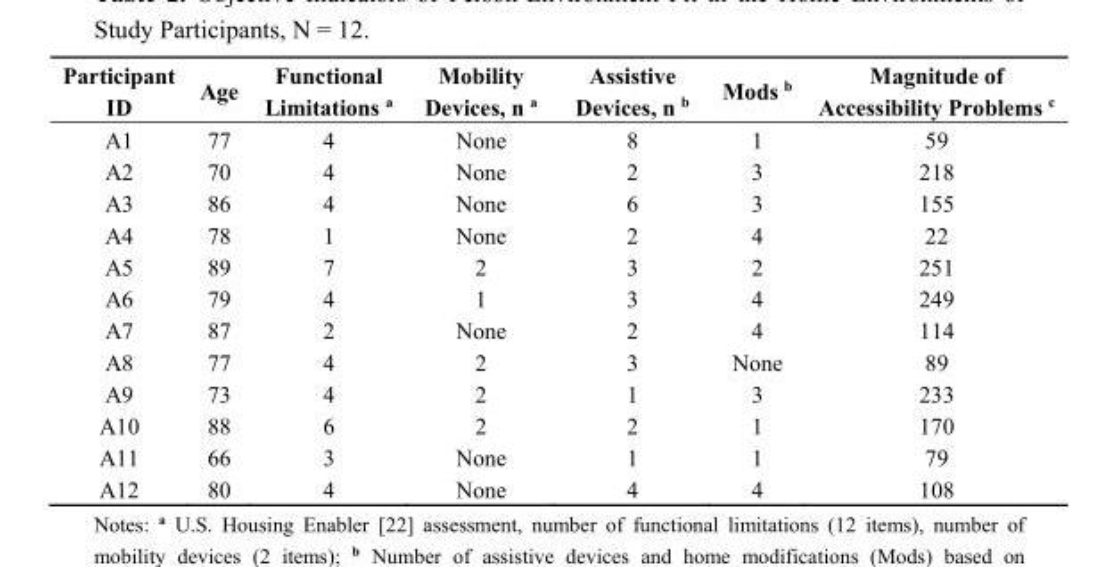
<table><thead><tr><td>Participant ID</td><td>Age</td><td>Functional Limitations <sup>a</sup></td><td>Mobility Devices, n <sup>a</sup></td><td>Assistive Devices, n <sup>b</sup></td><td>Mods <sup>b</sup></td><td>Magnitude of Accessibility Problems <sup>c</sup></td></tr></thead><tbody><tr><td>A1</td><td>77</td><td>4</td><td>None</td><td>8</td><td>1</td><td>59</td></tr><tr><td>A2</td><td>70</td><td>4</td><td>None</td><td>2</td><td>3</td><td>218</td></tr><tr><td>A3</td><td>86</td><td>4</td><td>None</td><td>6</td><td>3</td><td>155</td></tr><tr><td>A4</td><td>78</td><td>1</td><td>None</td><td>2</td><td>4</td><td>22</td></tr><tr><td>A5</td><td>89</td><td>7</td><td>2</td><td>3</td><td>2</td><td>251</td></tr><tr><td>A6</td><td>79</td><td>4</td><td>1</td><td>3</td><td>4</td><td>249</td></tr><tr><td>A7</td><td>87</td><td>2</td><td>None</td><td>2</td><td>4</td><td>114</td></tr><tr><td>A8</td><td>77</td><td>4</td><td>2</td><td>3</td><td>None</td><td>89</td></tr><tr><td>A9</td><td>73</td><td>4</td><td>2</td><td>1</td><td>3</td><td>233</td></tr><tr><td>A10</td><td>88</td><td>6</td><td>2</td><td>2</td><td>1</td><td>170</td></tr><tr><td>A11</td><td>66</td><td>3</td><td>None</td><td>1</td><td>1</td><td>79</td></tr><tr><td>A12</td><td>80</td><td>4</td><td>None</td><td>4</td><td>4</td><td>108</td></tr></tbody></table>